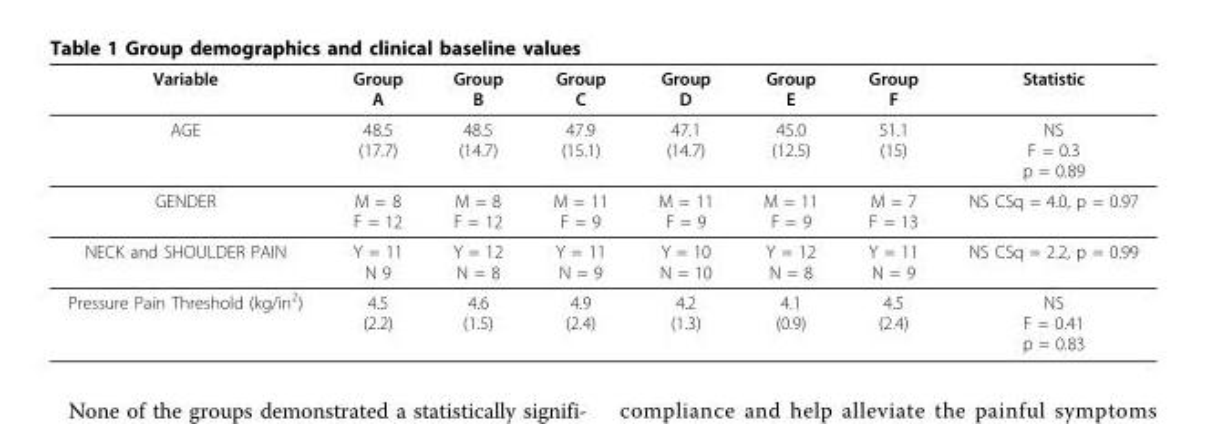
<table><thead><tr><td>Variable</td><td>Group A</td><td>Group B</td><td>Group C</td><td>Group D</td><td>Group E</td><td>Group F</td><td>Statistic</td></tr></thead><tbody><tr><td>AGE</td><td>48.5 (17.7)</td><td>48.5 (14.7)</td><td>47.9 (15.1)</td><td>47.1 (14.7)</td><td>45.0 (12.5)</td><td>51.1 (15)</td><td>NS F = 0.3 p = 0.89</td></tr><tr><td>GENDER</td><td>M = 8 F = 12</td><td>M = 8 F = 12</td><td>M = 11 F = 9</td><td>M = 11 F = 9</td><td>M = 11 F = 9</td><td>M = 7 F = 13</td><td>NS CSq = 4.0, p = 0.97</td></tr><tr><td>NECK and SHOULDER PAIN</td><td>Y = 11 N 9</td><td>Y = 12 N = 8</td><td>Y = 11 N = 9</td><td>Y = 10 N = 10</td><td>Y = 12 N = 8</td><td>Y = 11 N = 9</td><td>NS CSq = 2.2, p = 0.99</td></tr><tr><td>Pressure Pain Threshold (kg/in<sup>2</sup>)</td><td>4.5 (2.2)</td><td>4.6 (1.5)</td><td>4.9 (2.4)</td><td>4.2 (1.3)</td><td>4.1 (0.9)</td><td>4.5 (2.4)</td><td>NS F = 0.41 p = 0.83</td></tr></tbody></table>